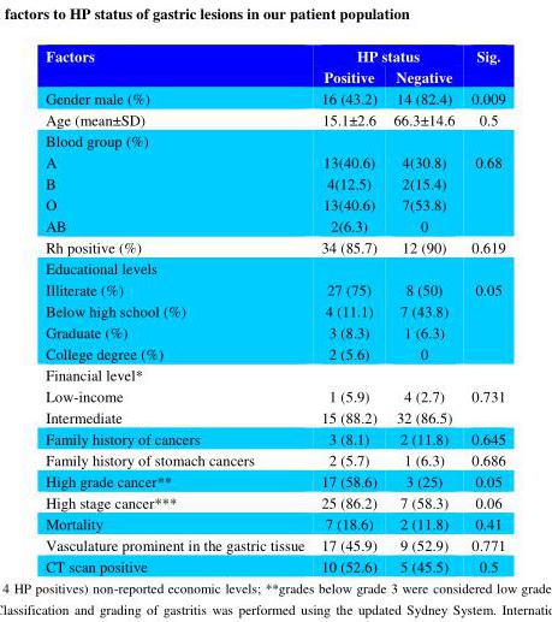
<table><thead><tr><td rowspan="2">Factors</td><td colspan="2">HP status</td><td rowspan="2">Sig.</td></tr><tr><td>Positive</td><td>Negative</td></tr></thead><tbody><tr><td>Gender male (%)</td><td>16 (43.2)</td><td>14 (82.4)</td><td>0.009</td></tr><tr><td>Age (mean±SD)</td><td>15.1±2.6</td><td>66.3±14.6</td><td>0.5</td></tr><tr><td colspan="4">Blood group (%)</td></tr><tr><td>A B O AB</td><td>13(40.6) 4(12.5) 13(40.6) 2(6.3)</td><td>4(30.8) 2(15.4) 7(53.8) 0</td><td>0.68</td></tr><tr><td>Rh positive (%)</td><td>34 (85.7)</td><td>12 (90)</td><td>0.619</td></tr><tr><td colspan="4">Educational levels</td></tr><tr><td>Illiterate (%) Below high school (%) Graduate (%) College degree (%)</td><td>27 (75) 4 (11.1) 3 (8.3) 2 (5.6)</td><td>8 (50) 7 (43.8) 1 (6.3) 0</td><td>0.05</td></tr><tr><td colspan="4">Financial level*</td></tr><tr><td>Low-income Intermediate</td><td>1 (5.9) 15 (88.2)</td><td>4 (2.7) 32 (86.5)</td><td>0.731</td></tr><tr><td>Family history of cancers</td><td>3 (8.1)</td><td>2 (11.8)</td><td>0.645</td></tr><tr><td>Family history of stomach cancers</td><td>2 (5.7)</td><td>1 (6.3)</td><td>0.686</td></tr><tr><td>High grade cancer**</td><td>17 (58.6)</td><td>3 (25)</td><td>0.05</td></tr><tr><td>High stage cancer***</td><td>25 (86.2)</td><td>7 (58.3)</td><td>0.06</td></tr><tr><td>Mortality</td><td>7 (18.6)</td><td>2 (11.8)</td><td>0.41</td></tr><tr><td>Vasculature prominent in the gastric tissue</td><td>17 (45.9)</td><td>9 (52.9)</td><td>0.771</td></tr><tr><td>CT scan positive</td><td>10 (52.6)</td><td>5 (45.5)</td><td>0.5</td></tr></tbody></table>